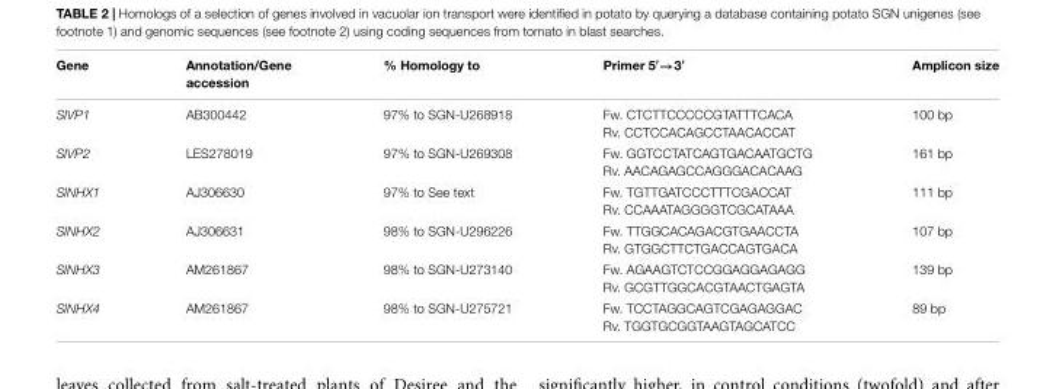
<table><thead><tr><td>Gene</td><td>Annotation/Gene accession</td><td>% Homology to</td><td>Primer 5′→3′</td><td>Amplicon size</td></tr></thead><tbody><tr><td>SlVP1</td><td>AB300442</td><td>97% to SGN-U268918</td><td>Fw. CTCTTCCCCCGTATTTCACA Rv. CCTCCACAGCCTAACACCAT</td><td>100 bp</td></tr><tr><td>SlVP2</td><td>LES278019</td><td>97% to SGN-U269308</td><td>Fw. GGTCCTATCAGTGACAATGCTG Rv. AACAGAGCCAGGGACACAAG</td><td>161 bp</td></tr><tr><td>SlNHX1</td><td>AJ306630</td><td>97% to See text</td><td>Fw. TGTTGATCCCTTTCGACCAT Rv. CCAAATAGGGGTCGCATAAA</td><td>111 bp</td></tr><tr><td>SlNHX2</td><td>AJ306631</td><td>98% to SGN-U296226</td><td>Fw. TTGGCACAGACGTGAACCTA Rv. GTGGCTTCTGACCAGTGACA</td><td>107 bp</td></tr><tr><td>SlNHX3</td><td>AM261867</td><td>98% to SGN-U273140</td><td>Fw. AGAAGTCTCCGGAGGAGAGG Rv. GCGTTGGCACGTAACTGAGTA</td><td>139 bp</td></tr><tr><td>SlNHX4</td><td>AM261867</td><td>98% to SGN-U275721</td><td>Fw. TCCTAGGCAGTCGAGAGGAC Rv. TGGTGCGGTAAGTAGCATCC</td><td>89 bp</td></tr></tbody></table>